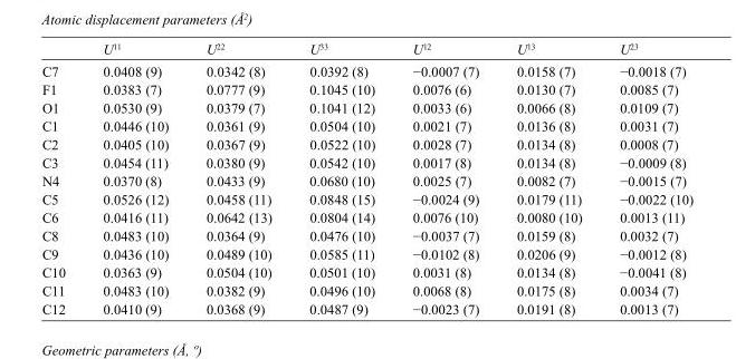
<table><thead><tr><td></td><td>U<sup>11</sup></td><td>U<sup>22</sup></td><td>U<sup>33</sup></td><td>U<sup>12</sup></td><td>U<sup>13</sup></td><td>U<sup>23</sup></td></tr></thead><tbody><tr><td>C7</td><td>0.0408 (9)</td><td>0.0342 (8)</td><td>0.0392 (8)</td><td>−0.0007 (7)</td><td>0.0158 (7)</td><td>−0.0018 (7)</td></tr><tr><td>F1</td><td>0.0383 (7)</td><td>0.0777 (9)</td><td>0.1045 (10)</td><td>0.0076 (6)</td><td>0.0130 (7)</td><td>0.0085 (7)</td></tr><tr><td>O1</td><td>0.0530 (9)</td><td>0.0379 (7)</td><td>0.1041 (12)</td><td>0.0033 (6)</td><td>0.0066 (8)</td><td>0.0109 (7)</td></tr><tr><td>C1</td><td>0.0446 (10)</td><td>0.0361 (9)</td><td>0.0504 (10)</td><td>0.0021 (7)</td><td>0.0136 (8)</td><td>0.0031 (7)</td></tr><tr><td>C2</td><td>0.0405 (10)</td><td>0.0367 (9)</td><td>0.0522 (10)</td><td>0.0028 (7)</td><td>0.0134 (8)</td><td>0.0008 (7)</td></tr><tr><td>C3</td><td>0.0454 (11)</td><td>0.0380 (9)</td><td>0.0542 (10)</td><td>0.0017 (8)</td><td>0.0134 (8)</td><td>−0.0009 (8)</td></tr><tr><td>N4</td><td>0.0370 (8)</td><td>0.0433 (9)</td><td>0.0680 (10)</td><td>0.0025 (7)</td><td>0.0082 (7)</td><td>−0.0015 (7)</td></tr><tr><td>C5</td><td>0.0526 (12)</td><td>0.0458 (11)</td><td>0.0848 (15)</td><td>−0.0024 (9)</td><td>0.0179 (11)</td><td>−0.0022 (10)</td></tr><tr><td>C6</td><td>0.0416 (11)</td><td>0.0642 (13)</td><td>0.0804 (14)</td><td>0.0076 (10)</td><td>0.0080 (10)</td><td>0.0013 (11)</td></tr><tr><td>C8</td><td>0.0483 (10)</td><td>0.0364 (9)</td><td>0.0476 (10)</td><td>−0.0037 (7)</td><td>0.0159 (8)</td><td>0.0032 (7)</td></tr><tr><td>C9</td><td>0.0436 (10)</td><td>0.0489 (10)</td><td>0.0585 (11)</td><td>−0.0102 (8)</td><td>0.0206 (9)</td><td>−0.0012 (8)</td></tr><tr><td>C10</td><td>0.0363 (9)</td><td>0.0504 (10)</td><td>0.0501 (10)</td><td>0.0031 (8)</td><td>0.0134 (8)</td><td>−0.0041 (8)</td></tr><tr><td>C11</td><td>0.0483 (10)</td><td>0.0382 (9)</td><td>0.0496 (10)</td><td>0.0068 (8)</td><td>0.0175 (8)</td><td>0.0034 (7)</td></tr><tr><td>C12</td><td>0.0410 (9)</td><td>0.0368 (9)</td><td>0.0487 (9)</td><td>−0.0023 (7)</td><td>0.0191 (8)</td><td>0.0013 (7)</td></tr></tbody></table>